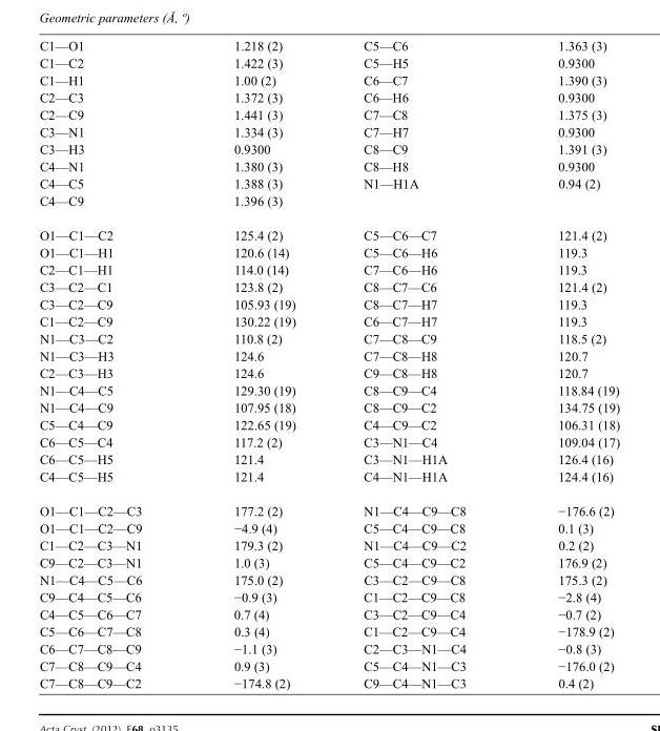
<table><tbody><tr><td>C1—O1</td><td>1.218 (2)</td><td>C5—C6</td><td>1.363 (3)</td></tr><tr><td>C1—C2</td><td>1.422 (3)</td><td>C5—H5</td><td>0.9300</td></tr><tr><td>C1—H1</td><td>1.00 (2)</td><td>C6—C7</td><td>1.390 (3)</td></tr><tr><td>C2—C3</td><td>1.372 (3)</td><td>C6—H6</td><td>0.9300</td></tr><tr><td>C2—C9</td><td>1.441 (3)</td><td>C7—C8</td><td>1.375 (3)</td></tr><tr><td>C3—N1</td><td>1.334 (3)</td><td>C7—H7</td><td>0.9300</td></tr><tr><td>C3—H3</td><td>0.9300</td><td>C8—C9</td><td>1.391 (3)</td></tr><tr><td>C4—N1</td><td>1.380 (3)</td><td>C8—H8</td><td>0.9300</td></tr><tr><td>C4—C5</td><td>1.388 (3)</td><td>N1—H1A</td><td>0.94 (2)</td></tr><tr><td>C4—C9</td><td>1.396 (3)</td><td></td><td></td></tr><tr><td>O1—C1—C2</td><td>125.4 (2)</td><td>C5—C6—C7</td><td>121.4 (2)</td></tr><tr><td>O1—C1—H1</td><td>120.6 (14)</td><td>C5—C6—H6</td><td>119.3</td></tr><tr><td>C2—C1—H1</td><td>114.0 (14)</td><td>C7—C6—H6</td><td>119.3</td></tr><tr><td>C3—C2—C1</td><td>123.8 (2)</td><td>C8—C7—C6</td><td>121.4 (2)</td></tr><tr><td>C3—C2—C9</td><td>105.93 (19)</td><td>C8—C7—H7</td><td>119.3</td></tr><tr><td>C1—C2—C9</td><td>130.22 (19)</td><td>C6—C7—H7</td><td>119.3</td></tr><tr><td>N1—C3—C2</td><td>110.8 (2)</td><td>C7—C8—C9</td><td>118.5 (2)</td></tr><tr><td>N1—C3—H3</td><td>124.6</td><td>C7—C8—H8</td><td>120.7</td></tr><tr><td>C2—C3—H3</td><td>124.6</td><td>C9—C8—H8</td><td>120.7</td></tr><tr><td>N1—C4—C5</td><td>129.30 (19)</td><td>C8—C9—C4</td><td>118.84 (19)</td></tr><tr><td>N1—C4—C9</td><td>107.95 (18)</td><td>C8—C9—C2</td><td>134.75 (19)</td></tr><tr><td>C5—C4—C9</td><td>122.65 (19)</td><td>C4—C9—C2</td><td>106.31 (18)</td></tr><tr><td>C6—C5—C4</td><td>117.2 (2)</td><td>C3—N1—C4</td><td>109.04 (17)</td></tr><tr><td>C6—C5—H5</td><td>121.4</td><td>C3—N1—H1A</td><td>126.4 (16)</td></tr><tr><td>C4—C5—H5</td><td>121.4</td><td>C4—N1—H1A</td><td>124.4 (16)</td></tr><tr><td>O1—C1—C2—C3</td><td>177.2 (2)</td><td>N1—C4—C9—C8</td><td>−176.6 (2)</td></tr><tr><td>O1—C1—C2—C9</td><td>−4.9 (4)</td><td>C5—C4—C9—C8</td><td>0.1 (3)</td></tr><tr><td>C1—C2—C3—N1</td><td>179.3 (2)</td><td>N1—C4—C9—C2</td><td>0.2 (2)</td></tr><tr><td>C9—C2—C3—N1</td><td>1.0 (3)</td><td>C5—C4—C9—C2</td><td>176.9 (2)</td></tr><tr><td>N1—C4—C5—C6</td><td>175.0 (2)</td><td>C3—C2—C9—C8</td><td>175.3 (2)</td></tr><tr><td>C9—C4—C5—C6</td><td>−0.9 (3)</td><td>C1—C2—C9—C8</td><td>−2.8 (4)</td></tr><tr><td>C4—C5—C6—C7</td><td>0.7 (4)</td><td>C3—C2—C9—C4</td><td>−0.7 (2)</td></tr><tr><td>C5—C6—C7—C8</td><td>0.3 (4)</td><td>C1—C2—C9—C4</td><td>−178.9 (2)</td></tr><tr><td>C6—C7—C8—C9</td><td>−1.1 (3)</td><td>C2—C3—N1—C4</td><td>−0.8 (3)</td></tr><tr><td>C7—C8—C9—C4</td><td>0.9 (3)</td><td>C5—C4—N1—C3</td><td>−176.0 (2)</td></tr><tr><td>C7—C8—C9—C2</td><td>−174.8 (2)</td><td>C9—C4—N1—C3</td><td>0.4 (2)</td></tr></tbody></table>